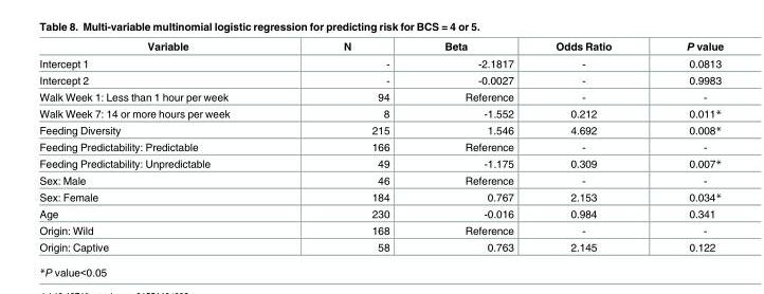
<table><thead><tr><td>Variable</td><td>N</td><td>Beta</td><td>Odds Ratio</td><td>P value</td></tr></thead><tbody><tr><td>Intercept 1</td><td>-</td><td>-2.1817</td><td>-</td><td>0.0813</td></tr><tr><td>Intercept 2</td><td>-</td><td>-0.0027</td><td>-</td><td>0.9983</td></tr><tr><td>Walk Week 1: Less than 1 hour per week</td><td>94</td><td>Reference</td><td>-</td><td>-</td></tr><tr><td>Walk Week 7: 14 or more hours per week</td><td>8</td><td>-1.552</td><td>0.212</td><td>0.011*</td></tr><tr><td>Feeding Diversity</td><td>215</td><td>1.546</td><td>4.692</td><td>0.008*</td></tr><tr><td>Feeding Predictability: Predictable</td><td>166</td><td>Reference</td><td>-</td><td>-</td></tr><tr><td>Feeding Predictability: Unpredictable</td><td>49</td><td>-1.175</td><td>0.309</td><td>0.007*</td></tr><tr><td>Sex: Male</td><td>46</td><td>Reference</td><td>-</td><td>-</td></tr><tr><td>Sex: Female</td><td>184</td><td>0.767</td><td>2.153</td><td>0.034*</td></tr><tr><td>Age</td><td>230</td><td>-0.016</td><td>0.984</td><td>0.341</td></tr><tr><td>Origin: Wild</td><td>168</td><td>Reference</td><td>-</td><td>-</td></tr><tr><td>Origin: Captive</td><td>58</td><td>0.763</td><td>2.145</td><td>0.122</td></tr></tbody></table>